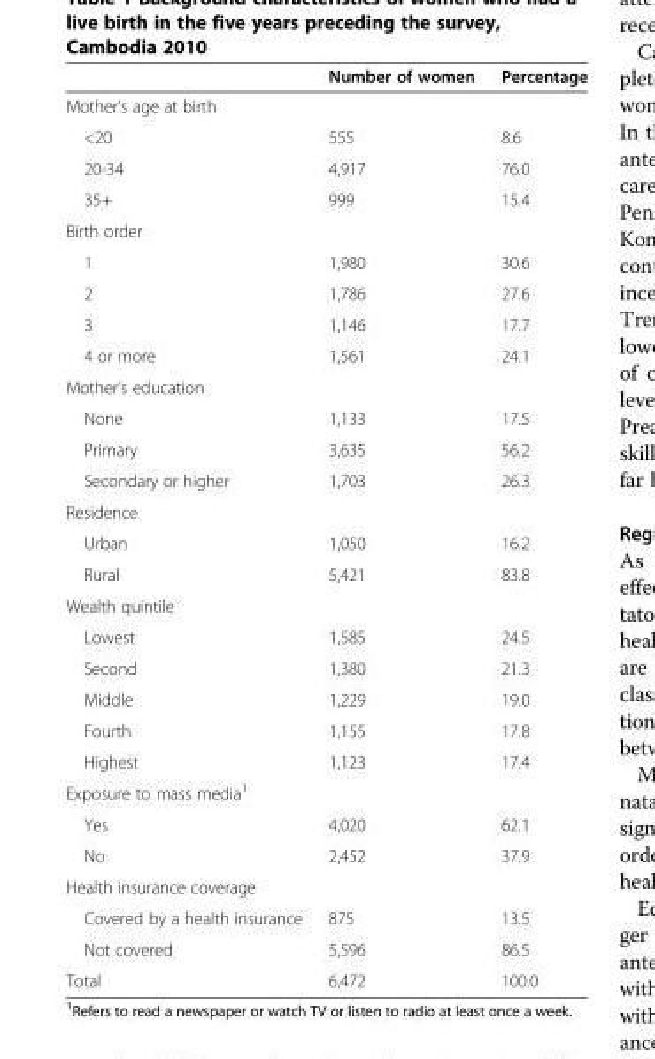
<table><thead><tr><td></td><td>Number of women</td><td>Percentage</td></tr></thead><tbody><tr><td colspan="3">Mother’s age at birth</td></tr><tr><td>&lt;20</td><td>555</td><td>8.6</td></tr><tr><td>20-34</td><td>4,917</td><td>76.0</td></tr><tr><td>35+</td><td>999</td><td>15.4</td></tr><tr><td colspan="3">Birth order</td></tr><tr><td>1</td><td>1,980</td><td>30.6</td></tr><tr><td>2</td><td>1,786</td><td>27.6</td></tr><tr><td>3</td><td>1,146</td><td>17.7</td></tr><tr><td>4 or more</td><td>1,561</td><td>24.1</td></tr><tr><td colspan="3">Mother’s education</td></tr><tr><td>None</td><td>1,133</td><td>17.5</td></tr><tr><td>Primary</td><td>3,635</td><td>56.2</td></tr><tr><td>Secondary or higher</td><td>1,703</td><td>26.3</td></tr><tr><td colspan="3">Residence</td></tr><tr><td>Urban</td><td>1,050</td><td>16.2</td></tr><tr><td>Rural</td><td>5,421</td><td>83.8</td></tr><tr><td colspan="3">Wealth quintile</td></tr><tr><td>Lowest</td><td>1,585</td><td>24.5</td></tr><tr><td>Second</td><td>1,380</td><td>21.3</td></tr><tr><td>Middle</td><td>1,229</td><td>19.0</td></tr><tr><td>Fourth</td><td>1,155</td><td>17.8</td></tr><tr><td>Highest</td><td>1,123</td><td>17.4</td></tr><tr><td colspan="3">Exposure to mass media<sup>1</sup></td></tr><tr><td>Yes</td><td>4,020</td><td>62.1</td></tr><tr><td>No</td><td>2,452</td><td>37.9</td></tr><tr><td colspan="3">Health insurance coverage</td></tr><tr><td>Covered by a health insurance</td><td>875</td><td>13.5</td></tr><tr><td>Not covered</td><td>5,596</td><td>86.5</td></tr><tr><td>Total</td><td>6,472</td><td>100.0</td></tr></tbody></table>